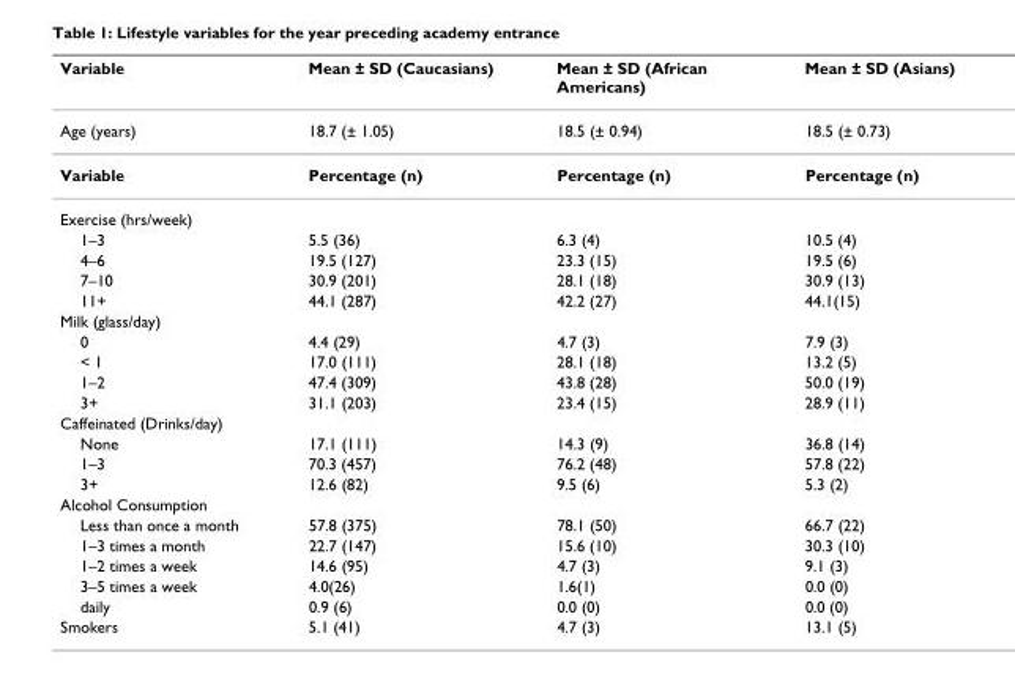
<table><thead><tr><td>Variable</td><td>Mean ± SD (Caucasians)</td><td>Mean ± SD (African Americans)</td><td>Mean ± SD (Asians)</td></tr></thead><tbody><tr><td>Age (years)</td><td>18.7 (± 1.05)</td><td>18.5 (± 0.94)</td><td>18.5 (± 0.73)</td></tr><tr><td>Variable</td><td>Percentage (n)</td><td>Percentage (n)</td><td>Percentage (n)</td></tr><tr><td colspan="4">Exercise (hrs/week)</td></tr><tr><td>1–3</td><td>5.5 (36)</td><td>6.3 (4)</td><td>10.5 (4)</td></tr><tr><td>4–6</td><td>19.5 (127)</td><td>23.3 (15)</td><td>19.5 (6)</td></tr><tr><td>7–10</td><td>30.9 (201)</td><td>28.1 (18)</td><td>30.9 (13)</td></tr><tr><td>11+</td><td>44.1 (287)</td><td>42.2 (27)</td><td>44.1(15)</td></tr><tr><td colspan="4">Milk (glass/day)</td></tr><tr><td>0</td><td>4.4 (29)</td><td>4.7 (3)</td><td>7.9 (3)</td></tr><tr><td>&lt; 1</td><td>17.0 (111)</td><td>28.1 (18)</td><td>13.2 (5)</td></tr><tr><td>1–2</td><td>47.4 (309)</td><td>43.8 (28)</td><td>50.0 (19)</td></tr><tr><td>3+</td><td>31.1 (203)</td><td>23.4 (15)</td><td>28.9 (11)</td></tr><tr><td colspan="4">Caffeinated (Drinks/day)</td></tr><tr><td>None</td><td>17.1 (111)</td><td>14.3 (9)</td><td>36.8 (14)</td></tr><tr><td>1–3</td><td>70.3 (457)</td><td>76.2 (48)</td><td>57.8 (22)</td></tr><tr><td>3+</td><td>12.6 (82)</td><td>9.5 (6)</td><td>5.3 (2)</td></tr><tr><td colspan="4">Alcohol Consumption</td></tr><tr><td>Less than once a month</td><td>57.8 (375)</td><td>78.1 (50)</td><td>66.7 (22)</td></tr><tr><td>1–3 times a month</td><td>22.7 (147)</td><td>15.6 (10)</td><td>30.3 (10)</td></tr><tr><td>1–2 times a week</td><td>14.6 (95)</td><td>4.7 (3)</td><td>9.1 (3)</td></tr><tr><td>3–5 times a week</td><td>4.0(26)</td><td>1.6(1)</td><td>0.0 (0)</td></tr><tr><td>daily</td><td>0.9 (6)</td><td>0.0 (0)</td><td>0.0 (0)</td></tr><tr><td>Smokers</td><td>5.1 (41)</td><td>4.7 (3)</td><td>13.1 (5)</td></tr></tbody></table>